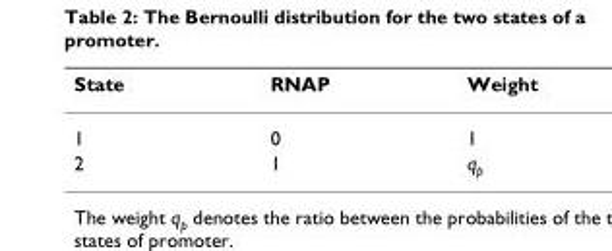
<table><thead><tr><td>State</td><td>RNAP</td><td>Weight</td></tr></thead><tbody><tr><td>1</td><td>0</td><td>1</td></tr><tr><td>2</td><td>1</td><td>q<sub>p</sub></td></tr></tbody></table>